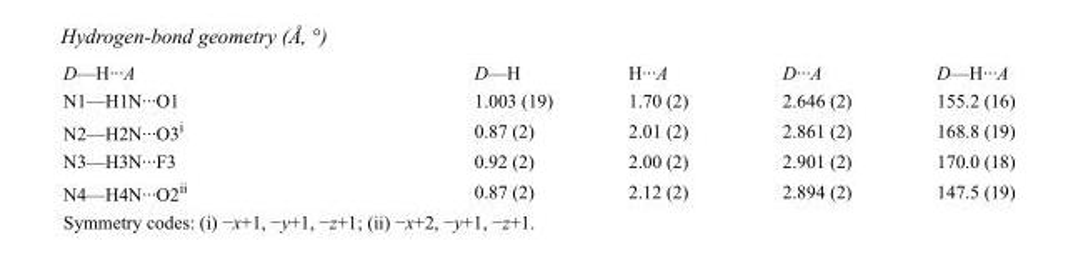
<table><tbody><tr><td>D—H···A</td><td>D—H</td><td>H···A</td><td>D···A</td><td>D—H···A</td></tr><tr><td>N1—H1N···O1</td><td>1.003 (19)</td><td>1.70 (2)</td><td>2.646 (2)</td><td>155.2 (16)</td></tr><tr><td>N2—H2N···O3<sup>i</sup></td><td>0.87 (2)</td><td>2.01 (2)</td><td>2.861 (2)</td><td>168.8 (19)</td></tr><tr><td>N3—H3N···F3</td><td>0.92 (2)</td><td>2.00 (2)</td><td>2.901 (2)</td><td>170.0 (18)</td></tr><tr><td>N4—H4N···O2<sup>ii</sup></td><td>0.87 (2)</td><td>2.12 (2)</td><td>2.894 (2)</td><td>147.5 (19)</td></tr></tbody></table>